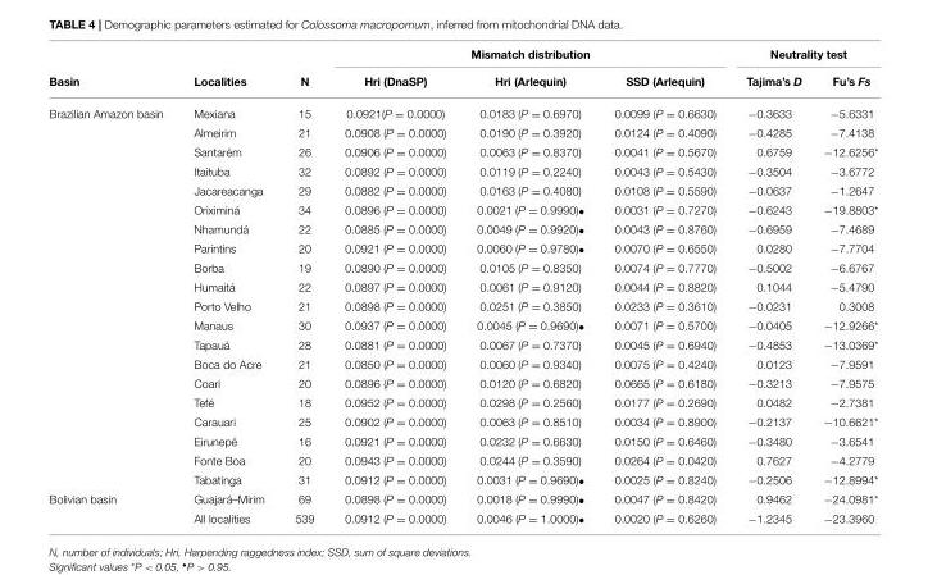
<table><thead><tr><td rowspan="2">Basin</td><td rowspan="2">Localities</td><td rowspan="2">N</td><td colspan="3">Mismatch distribution</td><td colspan="2">Neutrality test</td></tr><tr><td>Hri (DnaSP)</td><td>Hri (Arlequin)</td><td>SSD (Arlequin)</td><td>Tajima’s D</td><td>Fu’s Fs</td></tr></thead><tbody><tr><td rowspan="20">Brazilian Amazon basin</td><td>Mexiana</td><td>15</td><td>0.0921(P = 0.0000)</td><td>0.0183 (P = 0.6970)</td><td>0.0099 (P = 0.6630)</td><td>−0.3633</td><td>−5.6331</td></tr><tr><td>Almeirim</td><td>21</td><td>0.0908 (P = 0.0000)</td><td>0.0190 (P = 0.3920)</td><td>0.0124 (P = 0.4090)</td><td>−0.4285</td><td>−7.4138</td></tr><tr><td>Santarém</td><td>26</td><td>0.0906 (P = 0.0000)</td><td>0.0063 (P = 0.8370)</td><td>0.0041 (P = 0.5670)</td><td>0.6759</td><td>−12.6256*</td></tr><tr><td>Itaituba</td><td>32</td><td>0.0892 (P = 0.0000)</td><td>0.0119 (P = 0.2240)</td><td>0.0043 (P = 0.5430)</td><td>−0.3504</td><td>−3.6772</td></tr><tr><td>Jacareacanga</td><td>29</td><td>0.0882 (P = 0.0000)</td><td>0.0163 (P = 0.4080)</td><td>0.0108 (P = 0.5590)</td><td>−0.0637</td><td>−1.2647</td></tr><tr><td>Oriximiná</td><td>34</td><td>0.0896 (P = 0.0000)</td><td>0.0021 (P = 0.9990)•</td><td>0.0031 (P = 0.7270)</td><td>−0.6243</td><td>−19.8803*</td></tr><tr><td>Nhamundá</td><td>22</td><td>0.0885 (P = 0.0000)</td><td>0.0049 (P = 0.9920)•</td><td>0.0043 (P = 0.8760)</td><td>−0.6959</td><td>−7.4689</td></tr><tr><td>Parintins</td><td>20</td><td>0.0921 (P = 0.0000)</td><td>0.0060 (P = 0.9780)•</td><td>0.0070 (P = 0.6550)</td><td>0.0280</td><td>−7.7704</td></tr><tr><td>Borba</td><td>19</td><td>0.0890 (P = 0.0000)</td><td>0.0105 (P = 0.8350)</td><td>0.0074 (P = 0.7770)</td><td>−0.5002</td><td>−6.6767</td></tr><tr><td>Humaitá</td><td>22</td><td>0.0897 (P = 0.0000)</td><td>0.0061 (P = 0.9120)</td><td>0.0044 (P = 0.8820)</td><td>0.1044</td><td>−5.4790</td></tr><tr><td>Porto Velho</td><td>21</td><td>0.0898 (P = 0.0000)</td><td>0.0251 (P = 0.3850)</td><td>0.0233 (P = 0.3610)</td><td>−0.0231</td><td>0.3008</td></tr><tr><td>Manaus</td><td>30</td><td>0.0937 (P = 0.0000)</td><td>0.0045 (P = 0.9690)•</td><td>0.0071 (P = 0.5700)</td><td>−0.0405</td><td>−12.9266*</td></tr><tr><td>Tapauá</td><td>28</td><td>0.0881 (P = 0.0000)</td><td>0.0067 (P = 0.7370)</td><td>0.0045 (P = 0.6940)</td><td>−0.4853</td><td>−13.0369*</td></tr><tr><td>Boca do Acre</td><td>21</td><td>0.0850 (P = 0.0000)</td><td>0.0060 (P = 0.9340)</td><td>0.0075 (P = 0.4240)</td><td>0.0123</td><td>−7.9591</td></tr><tr><td>Coari</td><td>20</td><td>0.0896 (P = 0.0000)</td><td>0.0120 (P = 0.6820)</td><td>0.0665 (P = 0.6180)</td><td>−0.3213</td><td>−7.9575</td></tr><tr><td>Tefé</td><td>18</td><td>0.0952 (P = 0.0000)</td><td>0.0298 (P = 0.2560)</td><td>0.0177 (P = 0.2690)</td><td>0.0482</td><td>−2.7381</td></tr><tr><td>Carauari</td><td>25</td><td>0.0902 (P = 0.0000)</td><td>0.0063 (P = 0.8510)</td><td>0.0034 (P = 0.8900)</td><td>−0.2137</td><td>−10.6621*</td></tr><tr><td>Eirunepé</td><td>16</td><td>0.0921 (P = 0.0000)</td><td>0.0232 (P = 0.6630)</td><td>0.0150 (P = 0.6460)</td><td>−0.3480</td><td>−3.6541</td></tr><tr><td>Fonte Boa</td><td>20</td><td>0.0943 (P = 0.0000)</td><td>0.0244 (P = 0.3590)</td><td>0.0264 (P = 0.0420)</td><td>0.7627</td><td>−4.2779</td></tr><tr><td>Tabatinga</td><td>31</td><td>0.0912 (P = 0.0000)</td><td>0.0031 (P = 0.9690)•</td><td>0.0025 (P = 0.8240)</td><td>−0.2506</td><td>−12.8994*</td></tr><tr><td rowspan="2">Bolivian basin</td><td>Guajará–Mirim</td><td>69</td><td>0.0898 (P = 0.0000)</td><td>0.0018 (P = 0.9990)•</td><td>0.0047 (P = 0.8420)</td><td>0.9462</td><td>−24.0981*</td></tr><tr><td>All localities</td><td>539</td><td>0.0912 (P = 0.0000)</td><td>0.0046 (P = 1.0000)•</td><td>0.0020 (P = 0.6260)</td><td>−1.2345</td><td>−23.3960</td></tr></tbody></table>